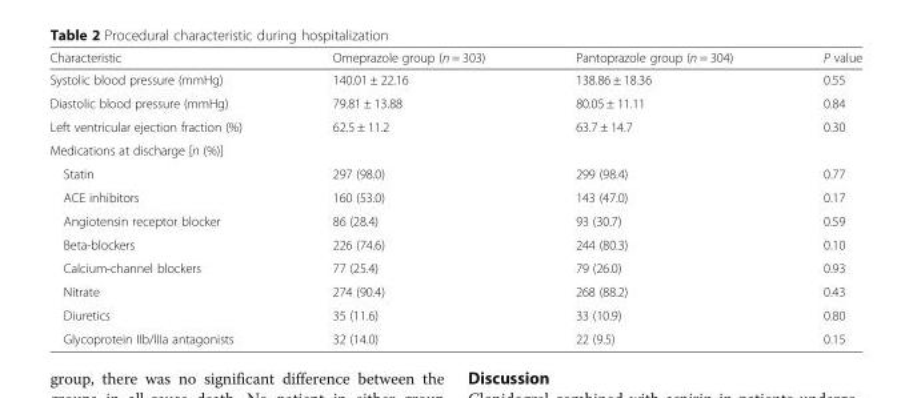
<table><thead><tr><td>Characteristic</td><td>Omeprazole group (n = 303)</td><td>Pantoprazole group (n = 304)</td><td>P value</td></tr></thead><tbody><tr><td>Systolic blood pressure (mmHg)</td><td>140.01 ± 22.16</td><td>138.86 ± 18.36</td><td>0.55</td></tr><tr><td>Diastolic blood pressure (mmHg)</td><td>79.81 ± 13.88</td><td>80.05 ± 11.11</td><td>0.84</td></tr><tr><td>Left ventricular ejection fraction (%)</td><td>62.5 ± 11.2</td><td>63.7 ± 14.7</td><td>0.30</td></tr><tr><td colspan="4">Medications at discharge [n (%)]</td></tr><tr><td>Statin</td><td>297 (98.0)</td><td>299 (98.4)</td><td>0.77</td></tr><tr><td>ACE inhibitors</td><td>160 (53.0)</td><td>143 (47.0)</td><td>0.17</td></tr><tr><td>Angiotensin receptor blocker</td><td>86 (28.4)</td><td>93 (30.7)</td><td>0.59</td></tr><tr><td>Beta-blockers</td><td>226 (74.6)</td><td>244 (80.3)</td><td>0.10</td></tr><tr><td>Calcium-channel blockers</td><td>77 (25.4)</td><td>79 (26.0)</td><td>0.93</td></tr><tr><td>Nitrate</td><td>274 (90.4)</td><td>268 (88.2)</td><td>0.43</td></tr><tr><td>Diuretics</td><td>35 (11.6)</td><td>33 (10.9)</td><td>0.80</td></tr><tr><td>Glycoprotein IIb/IIIa antagonists</td><td>32 (14.0)</td><td>22 (9.5)</td><td>0.15</td></tr></tbody></table>